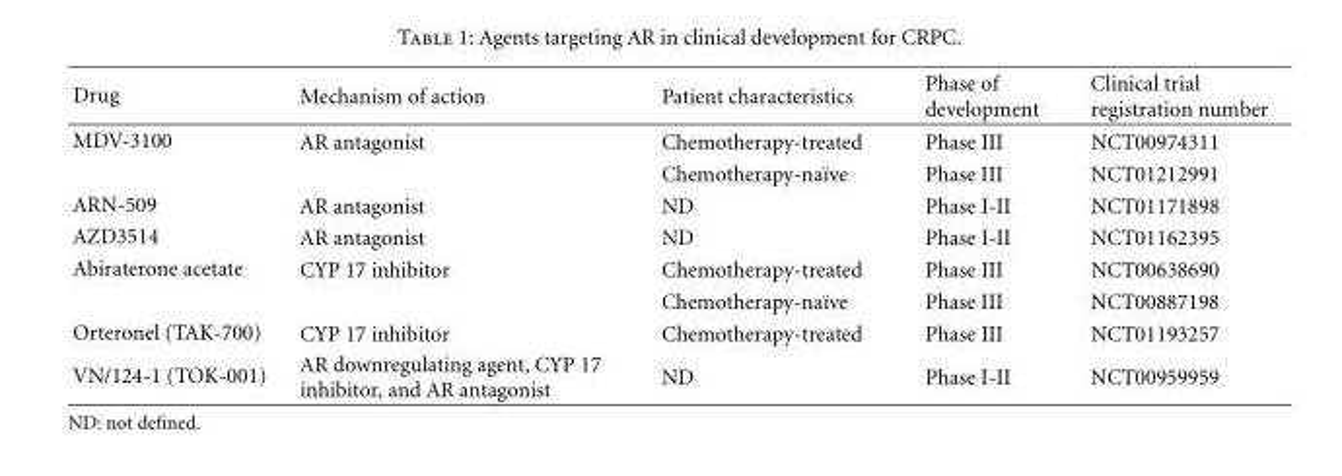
<table><thead><tr><td>Drug</td><td>Mechanism of action</td><td>Patient characteristics</td><td>Phase of development</td><td>Clinical trial registration number</td></tr></thead><tbody><tr><td rowspan="2">MDV-3100</td><td>AR antagonist</td><td>Chemotherapy-treated</td><td>Phase III</td><td>NCT00974311</td></tr><tr><td></td><td>Chemotherapy-na¨ıve</td><td>Phase III</td><td>NCT01212991</td></tr><tr><td>ARN-509</td><td>AR antagonist</td><td>ND</td><td>Phase I-II</td><td>NCT01171898</td></tr><tr><td>AZD3514</td><td>AR antagonist</td><td>ND</td><td>Phase I-II</td><td>NCT01162395</td></tr><tr><td rowspan="2">Abiraterone acetate</td><td>CYP 17 inhibitor</td><td>Chemotherapy-treated</td><td>Phase III</td><td>NCT00638690</td></tr><tr><td></td><td>Chemotherapy-na¨ıve</td><td>Phase III</td><td>NCT00887198</td></tr><tr><td>Orteronel (TAK-700)</td><td>CYP 17 inhibitor</td><td>Chemotherapy-treated</td><td>Phase III</td><td>NCT01193257</td></tr><tr><td>VN/124-1 (TOK-001)</td><td>AR downregulating agent, CYP 17 inhibitor, and AR antagonist</td><td>ND</td><td>Phase I-II</td><td>NCT00959959</td></tr></tbody></table>